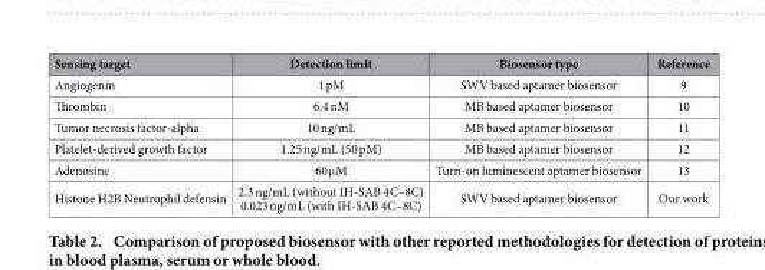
<table><thead><tr><td>Sensing target</td><td>Detection limit</td><td>Biosensor type</td><td>Reference</td></tr></thead><tbody><tr><td>Angiogenin</td><td>1 pM</td><td>SWV based aptamer biosensor</td><td>9</td></tr><tr><td>Thrombin</td><td>6.4 nM</td><td>MB based aptamer biosensor</td><td>10</td></tr><tr><td>Tumor necrosis factor-alpha</td><td>10 ng/mL</td><td>MB based aptamer biosensor</td><td>11</td></tr><tr><td>Platelet-derived growth factor</td><td>1.25 ng/mL (50 pM)</td><td>MB based aptamer biosensor</td><td>12</td></tr><tr><td>Adenosine</td><td>60 μ M</td><td>Turn-on luminescent aptamer biosensor</td><td>13</td></tr><tr><td>Histone H2B Neutrophil defensin</td><td>2.3 ng/mL (without IH-SAB 4C–8C) 0.023 ng/mL (with IH-SAB 4C–8C)</td><td>SWV based aptamer biosensor</td><td>Our work</td></tr></tbody></table>